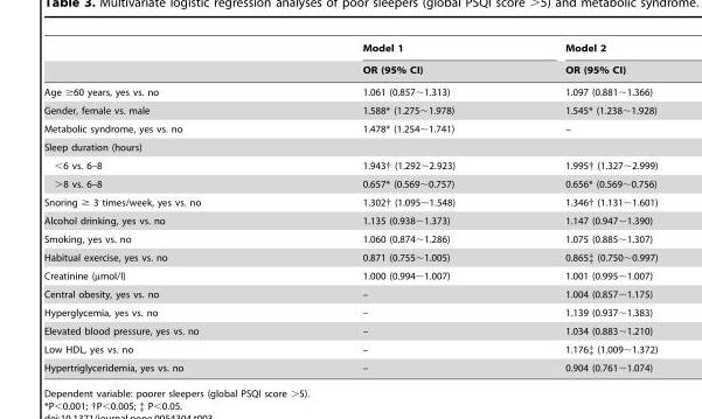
<table><thead><tr><td rowspan="2"></td><td rowspan="2">Model 1 OR (95% CI)</td><td rowspan="2">Model 2 OR (95% CI)</td></tr><tr></tr></thead><tbody><tr><td>Age ≥60 years, yes vs. no</td><td>1.061 (0.857∼1.313)</td><td>1.097 (0.881∼1.366)</td></tr><tr><td>Gender, female vs. male</td><td>1.588* (1.275∼1.978)</td><td>1.545* (1.238∼1.928)</td></tr><tr><td>Metabolic syndrome, yes vs. no</td><td>1.478* (1.254∼1.741)</td><td>–</td></tr><tr><td colspan="3">Sleep duration (hours)</td></tr><tr><td>&lt;6 vs. 6–8</td><td>1.943† (1.292∼2.923)</td><td>1.995† (1.327∼2.999)</td></tr><tr><td>&gt;8 vs. 6–8</td><td>0.657* (0.569∼0.757)</td><td>0.656* (0.569∼0.756)</td></tr><tr><td>Snoring ≥ 3 times/week, yes vs. no</td><td>1.302† (1.095∼1.548)</td><td>1.346† (1.131∼1.601)</td></tr><tr><td>Alcohol drinking, yes vs. no</td><td>1.135 (0.938∼1.373)</td><td>1.147 (0.947∼1.390)</td></tr><tr><td>Smoking, yes vs. no</td><td>1.060 (0.874∼1.286)</td><td>1.075 (0.885∼1.307)</td></tr><tr><td>Habitual exercise, yes vs. no</td><td>0.871 (0.755∼1.005)</td><td>0.865‡ (0.750∼0.997)</td></tr><tr><td>Creatinine (µmol/l)</td><td>1.000 (0.994∼1.007)</td><td>1.001 (0.995∼1.007)</td></tr><tr><td>Central obesity, yes vs. no</td><td>–</td><td>1.004 (0.857∼1.175)</td></tr><tr><td>Hyperglycemia, yes vs. no</td><td>–</td><td>1.139 (0.937∼1.383)</td></tr><tr><td>Elevated blood pressure, yes vs. no</td><td>–</td><td>1.034 (0.883∼1.210)</td></tr><tr><td>Low HDL, yes vs. no</td><td>–</td><td>1.176‡ (1.009∼1.372)</td></tr><tr><td>Hypertriglyceridemia, yes vs. no</td><td>–</td><td>0.904 (0.761∼1.074)</td></tr></tbody></table>